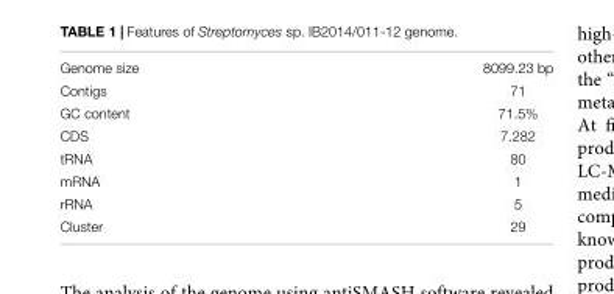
<table><tbody><tr><td>Genome size</td><td>8099.23 bp</td></tr><tr><td>Contigs</td><td>71</td></tr><tr><td>GC content</td><td>71.5%</td></tr><tr><td>CDS</td><td>7.282</td></tr><tr><td>tRNA</td><td>80</td></tr><tr><td>mRNA</td><td>1</td></tr><tr><td>rRNA</td><td>5</td></tr><tr><td>Cluster</td><td>29</td></tr></tbody></table>